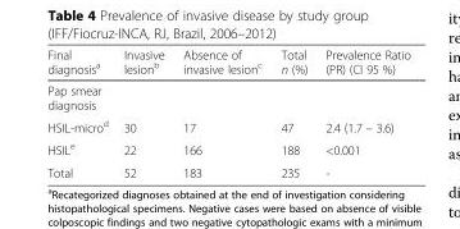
<table><thead><tr><td>Final diagnosis<sup>a</sup></td><td>Invasive lesion<sup>b</sup></td><td>Absence of invasive lesion<sup>c</sup></td><td>Total n (%)</td><td>Prevalence Ratio (PR) (CI 95 %)</td></tr></thead><tbody><tr><td colspan="5">Pap smear diagnosis</td></tr><tr><td>HSIL-micro<sup>d</sup></td><td>30</td><td>17</td><td>47</td><td>2.4 (1.7 – 3.6)</td></tr><tr><td>HSIL<sup>e</sup></td><td>22</td><td>166</td><td>188</td><td>&lt;0.001</td></tr><tr><td>Total</td><td>52</td><td>183</td><td>235</td><td>-</td></tr></tbody></table>